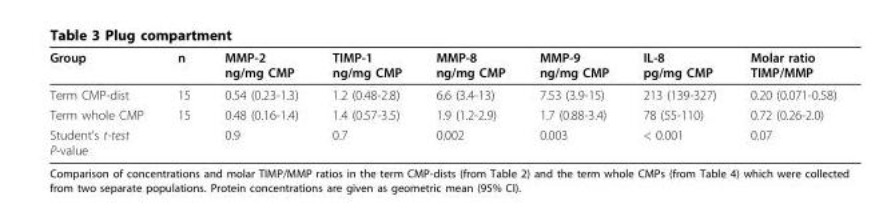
<table><thead><tr><td>Group</td><td>n</td><td>MMP-2 ng/mg CMP</td><td>TIMP-1 ng/mg CMP</td><td>MMP-8 ng/mg CMP</td><td>MMP-9 ng/mg CMP</td><td>IL-8 pg/mg CMP</td><td>Molar ratio TIMP/MMP</td></tr></thead><tbody><tr><td>Term CMP-dist</td><td>15</td><td>0.54 (0.23-1.3)</td><td>1.2 (0.48-2.8)</td><td>6.6 (3.4-13)</td><td>7.53 (3.9-15)</td><td>213 (139-327)</td><td>0.20 (0.071-0.58)</td></tr><tr><td>Term whole CMP</td><td>15</td><td>0.48 (0.16-1.4)</td><td>1.4 (0.57-3.5)</td><td>1.9 (1.2-2.9)</td><td>1.7 (0.88-3.4)</td><td>78 (55-110)</td><td>0.72 (0.26-2.0)</td></tr><tr><td>Student’s t-test P-value</td><td></td><td>0.9</td><td>0.7</td><td>0.002</td><td>0.003</td><td>&lt; 0.001</td><td>0.07</td></tr></tbody></table>